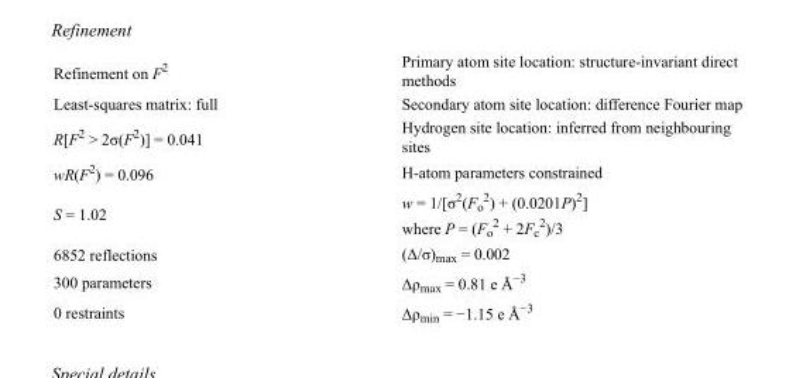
<table><tbody><tr><td>Refinement on F<sup>2</sup></td><td>Primary atom site location: structure-invariant direct methods</td></tr><tr><td>Least-squares matrix: full</td><td>Secondary atom site location: difference Fourier map</td></tr><tr><td>R[F<sup>2</sup> &gt; 2σ(F<sup>2</sup>)] = 0.041</td><td>Hydrogen site location: inferred from neighbouring sites</td></tr><tr><td>wR(F<sup>2</sup>) = 0.096</td><td>H-atom parameters constrained</td></tr><tr><td>S = 1.02</td><td>w = 1/[σ<sup>2</sup>(F<sub>o</sub> <sup>2</sup>) + (0.0201P)<sup>2</sup>] where P = (F<sub>o</sub> <sup>2</sup> + 2F<sub>c</sub> <sup>2</sup>)/3</td></tr><tr><td>6852 reflections</td><td>(Δ/σ)<sub>max</sub> = 0.002</td></tr><tr><td>300 parameters</td><td>Δρ<sub>max</sub> = 0.81 e Å<sup>−3</sup></td></tr><tr><td>0 restraints</td><td>Δρ<sub>min</sub> = −1.15 e Å<sup>−3</sup></td></tr></tbody></table>